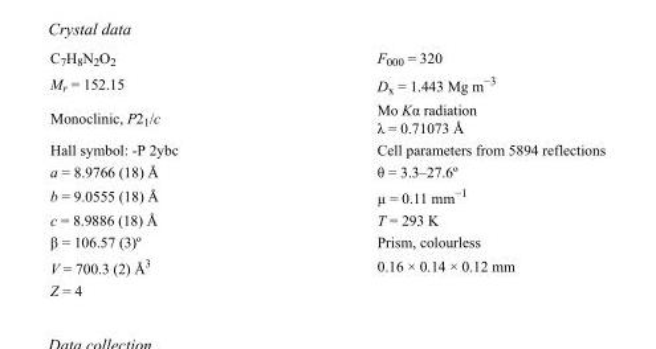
<table><tbody><tr><td>C<sub>7</sub>H<sub>8</sub>N<sub>2</sub>O<sub>2</sub></td><td>F000 = 320</td></tr><tr><td>M<sub>r</sub> = 152.15</td><td>D<sub>x</sub> = 1.443 Mg m<sup>−3</sup></td></tr><tr><td>Monoclinic, P2<sub>1</sub>/c</td><td>Mo Kα radiation λ = 0.71073 Å</td></tr><tr><td>Hall symbol: -P 2ybc</td><td>Cell parameters from 5894 reflections</td></tr><tr><td>a = 8.9766 (18) Å</td><td>θ = 3.3–27.6º</td></tr><tr><td>b = 9.0555 (18) Å</td><td>µ = 0.11 mm<sup>−1</sup></td></tr><tr><td>c = 8.9886 (18) Å</td><td>T = 293 K</td></tr><tr><td>β = 106.57 (3)º</td><td>Prism, colourless</td></tr><tr><td>V = 700.3 (2) Å<sup>3</sup></td><td>0.16 × 0.14 × 0.12 mm</td></tr><tr><td>Z = 4</td><td></td></tr></tbody></table>